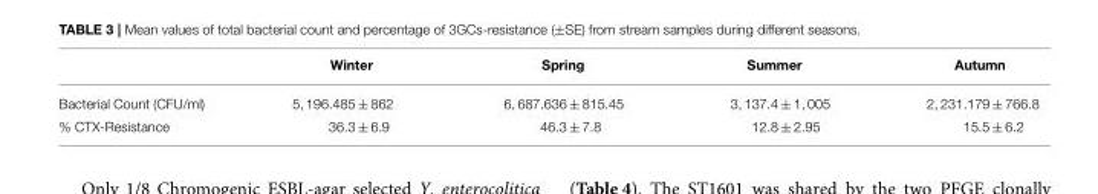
<table><thead><tr><td></td><td>Winter</td><td>Spring</td><td>Summer</td><td>Autumn</td></tr></thead><tbody><tr><td>Bacterial Count (CFU/ml)</td><td>5, 196.485 ± 862</td><td>6, 687.636 ± 815.45</td><td>3, 137.4 ± 1, 005</td><td>2, 231.179 ± 766.8</td></tr><tr><td>% CTX-Resistance</td><td>36.3 ± 6.9</td><td>46.3 ± 7.8</td><td>12.8 ± 2.95</td><td>15.5 ± 6.2</td></tr></tbody></table>